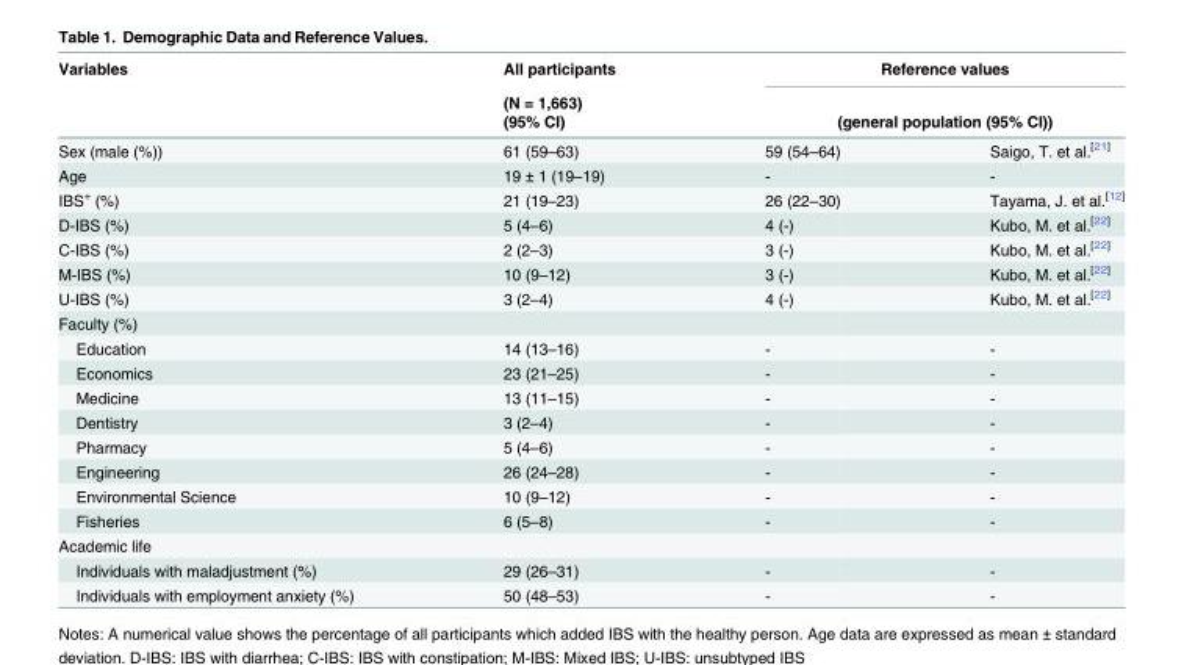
<table><thead><tr><td rowspan="3">Variables</td><td rowspan="3">All participants (N = 1,663) (95% CI)</td><td colspan="2">Reference values</td></tr><tr><td></td><td></td></tr><tr><td colspan="2">(general population (95% CI))</td></tr></thead><tbody><tr><td>Sex (male (%))</td><td>61 (59–63)</td><td>59 (54–64)</td><td>Saigo, T. et al.<sup>[21]</sup></td></tr><tr><td>Age</td><td>19 ± 1 (19–19)</td><td>-</td><td>-</td></tr><tr><td>IBS<sup>+</sup> (%)</td><td>21 (19–23)</td><td>26 (22–30)</td><td>Tayama, J. et al.<sup>[12]</sup></td></tr><tr><td>D-IBS (%)</td><td>5 (4–6)</td><td>4 (-)</td><td>Kubo, M. et al.<sup>[22]</sup></td></tr><tr><td>C-IBS (%)</td><td>2 (2–3)</td><td>3 (-)</td><td>Kubo, M. et al.<sup>[22]</sup></td></tr><tr><td>M-IBS (%)</td><td>10 (9–12)</td><td>3 (-)</td><td>Kubo, M. et al.<sup>[22]</sup></td></tr><tr><td>U-IBS (%)</td><td>3 (2–4)</td><td>4 (-)</td><td>Kubo, M. et al.<sup>[22]</sup></td></tr><tr><td colspan="4">Faculty (%)</td></tr><tr><td>Education</td><td>14 (13–16)</td><td>-</td><td>-</td></tr><tr><td>Economics</td><td>23 (21–25)</td><td>-</td><td>-</td></tr><tr><td>Medicine</td><td>13 (11–15)</td><td>-</td><td>-</td></tr><tr><td>Dentistry</td><td>3 (2–4)</td><td>-</td><td>-</td></tr><tr><td>Pharmacy</td><td>5 (4–6)</td><td>-</td><td>-</td></tr><tr><td>Engineering</td><td>26 (24–28)</td><td>-</td><td>-</td></tr><tr><td>Environmental Science</td><td>10 (9–12)</td><td>-</td><td>-</td></tr><tr><td>Fisheries</td><td>6 (5–8)</td><td>-</td><td>-</td></tr><tr><td colspan="4">Academic life</td></tr><tr><td>Individuals with maladjustment (%)</td><td>29 (26–31)</td><td>-</td><td>-</td></tr><tr><td>Individuals with employment anxiety (%)</td><td>50 (48–53)</td><td>-</td><td>-</td></tr></tbody></table>